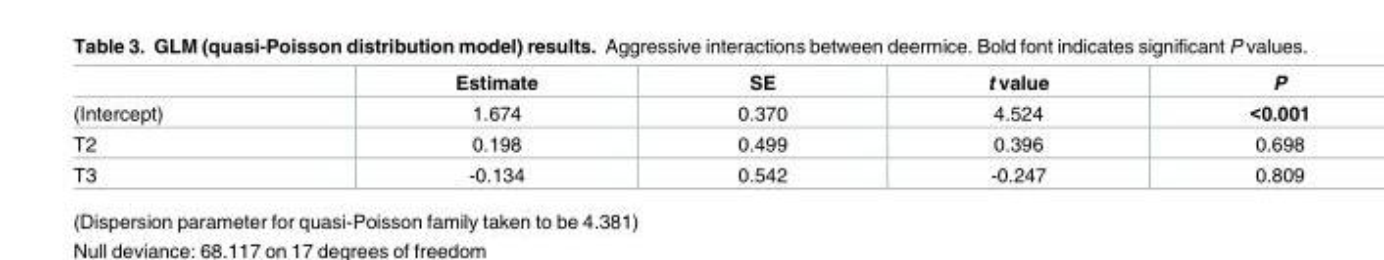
<table><thead><tr><td></td><td>Estimate</td><td>SE</td><td>t value</td><td>P</td></tr></thead><tbody><tr><td>(Intercept)</td><td>1.674</td><td>0.370</td><td>4.524</td><td>&lt;0.001</td></tr><tr><td>T2</td><td>0.198</td><td>0.499</td><td>0.396</td><td>0.698</td></tr><tr><td>T3</td><td>-0.134</td><td>0.542</td><td>-0.247</td><td>0.809</td></tr></tbody></table>